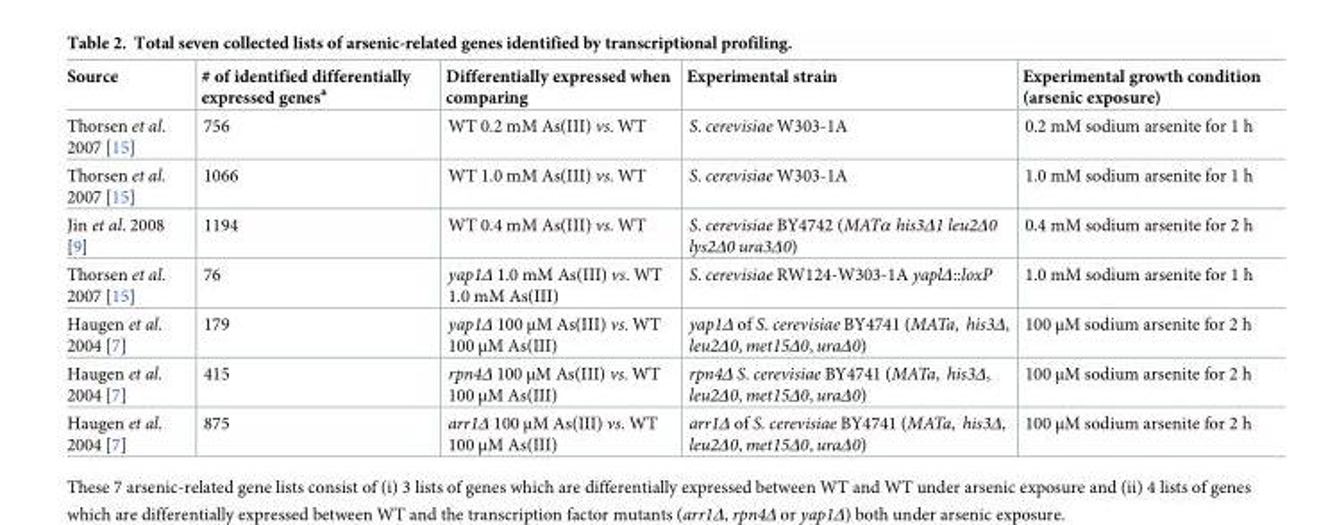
<table><thead><tr><td>Source</td><td># of identified differentially expressed genes<sup>a</sup></td><td>Differentially expressed when comparing</td><td>Experimental strain</td><td>Experimental growth condition (arsenic exposure)</td></tr></thead><tbody><tr><td>Thorsen et al. 2007 [15]</td><td>756</td><td>WT 0.2 mM As(III) vs. WT</td><td>S. cerevisiae W303-1A</td><td>0.2 mM sodium arsenite for 1 h</td></tr><tr><td>Thorsen et al. 2007 [15]</td><td>1066</td><td>WT 1.0 mM As(III) vs. WT</td><td>S. cerevisiae W303-1A</td><td>1.0 mM sodium arsenite for 1 h</td></tr><tr><td>Jin et al. 2008 [9]</td><td>1194</td><td>WT 0.4 mM As(III) vs. WT</td><td>S. cerevisiae BY4742 (MATα his3Δ1 leu2Δ0 lys2Δ0 ura3Δ0)</td><td>0.4 mM sodium arsenite for 2 h</td></tr><tr><td>Thorsen et al. 2007 [15]</td><td>76</td><td>yap1Δ 1.0 mM As(III) vs. WT 1.0 mM As(III)</td><td>S. cerevisiae RW124-W303-1A yaplΔ::loxP</td><td>1.0 mM sodium arsenite for 1 h</td></tr><tr><td>Haugen et al. 2004 [7]</td><td>179</td><td>yap1Δ 100 μM As(III) vs. WT 100 μM As(III)</td><td>yap1Δ of S. cerevisiae BY4741 (MATa, his3Δ, leu2Δ0, met15Δ0, uraΔ0)</td><td>100 μM sodium arsenite for 2 h</td></tr><tr><td>Haugen et al. 2004 [7]</td><td>415</td><td>rpn4Δ 100 μM As(III) vs. WT 100 μM As(III)</td><td>rpn4Δ S. cerevisiae BY4741 (MATa, his3Δ, leu2Δ0, met15Δ0, uraΔ0)</td><td>100 μM sodium arsenite for 2 h</td></tr><tr><td>Haugen et al. 2004 [7]</td><td>875</td><td>arr1Δ 100 μM As(III) vs. WT 100 μM As(III)</td><td>arr1Δ of S. cerevisiae BY4741 (MATa, his3Δ, leu2Δ0, met15Δ0, uraΔ0)</td><td>100 μM sodium arsenite for 2 h</td></tr></tbody></table>